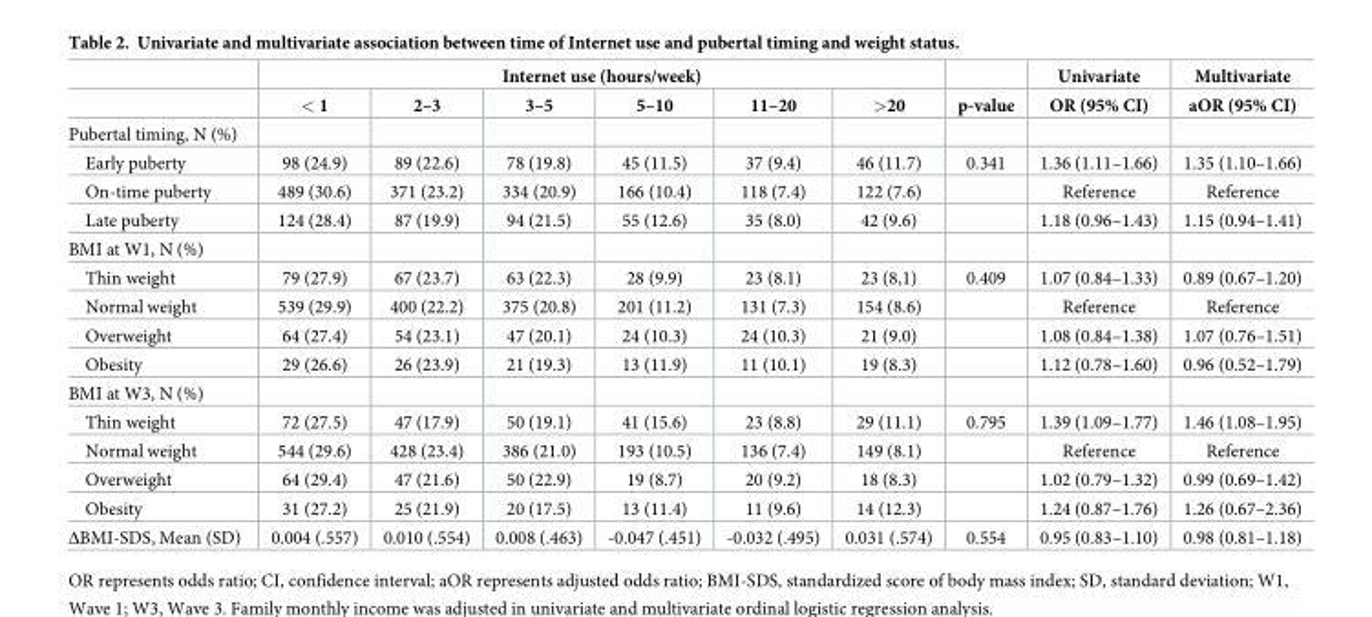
<table><thead><tr><td rowspan="2"></td><td colspan="6">Internet use (hours/week)</td><td rowspan="2">p-value</td><td rowspan="2">Univariate OR (95% CI)</td><td rowspan="2">Multivariate aOR (95% CI)</td></tr><tr><td>&lt; 1</td><td>2–3</td><td>3–5</td><td>5–10</td><td>11–20</td><td>&gt;20</td></tr></thead><tbody><tr><td colspan="10">Pubertal timing, N (%)</td></tr><tr><td>Early puberty</td><td>98 (24.9)</td><td>89 (22.6)</td><td>78 (19.8)</td><td>45 (11.5)</td><td>37 (9.4)</td><td>46 (11.7)</td><td>0.341</td><td>1.36 (1.11–1.66)</td><td>1.35 (1.10–1.66)</td></tr><tr><td>On-time puberty</td><td>489 (30.6)</td><td>371 (23.2)</td><td>334 (20.9)</td><td>166 (10.4)</td><td>118 (7.4)</td><td>122 (7.6)</td><td></td><td>Reference</td><td>Reference</td></tr><tr><td>Late puberty</td><td>124 (28.4)</td><td>87 (19.9)</td><td>94 (21.5)</td><td>55 (12.6)</td><td>35 (8.0)</td><td>42 (9.6)</td><td></td><td>1.18 (0.96–1.43)</td><td>1.15 (0.94–1.41)</td></tr><tr><td colspan="10">BMI at W1, N (%)</td></tr><tr><td>Thin weight</td><td>79 (27.9)</td><td>67 (23.7)</td><td>63 (22.3)</td><td>28 (9.9)</td><td>23 (8.1)</td><td>23 (8,1)</td><td>0.409</td><td>1.07 (0.84–1.33)</td><td>0.89 (0.67–1.20)</td></tr><tr><td>Normal weight</td><td>539 (29.9)</td><td>400 (22.2)</td><td>375 (20.8)</td><td>201 (11.2)</td><td>131 (7.3)</td><td>154 (8.6)</td><td></td><td>Reference</td><td>Reference</td></tr><tr><td>Overweight</td><td>64 (27.4)</td><td>54 (23.1)</td><td>47 (20.1)</td><td>24 (10.3)</td><td>24 (10.3)</td><td>21 (9.0)</td><td></td><td>1.08 (0.84–1.38)</td><td>1.07 (0.76–1.51)</td></tr><tr><td>Obesity</td><td>29 (26.6)</td><td>26 (23.9)</td><td>21 (19.3)</td><td>13 (11.9)</td><td>11 (10.1)</td><td>19 (8.3)</td><td></td><td>1.12 (0.78–1.60)</td><td>0.96 (0.52–1.79)</td></tr><tr><td colspan="10">BMI at W3, N (%)</td></tr><tr><td>Thin weight</td><td>72 (27.5)</td><td>47 (17.9)</td><td>50 (19.1)</td><td>41 (15.6)</td><td>23 (8.8)</td><td>29 (11.1)</td><td>0.795</td><td>1.39 (1.09–1.77)</td><td>1.46 (1.08–1.95)</td></tr><tr><td>Normal weight</td><td>544 (29.6)</td><td>428 (23.4)</td><td>386 (21.0)</td><td>193 (10.5)</td><td>136 (7.4)</td><td>149 (8.1)</td><td></td><td>Reference</td><td>Reference</td></tr><tr><td>Overweight</td><td>64 (29.4)</td><td>47 (21.6)</td><td>50 (22.9)</td><td>19 (8.7)</td><td>20 (9.2)</td><td>18 (8.3)</td><td></td><td>1.02 (0.79–1.32)</td><td>0.99 (0.69–1.42)</td></tr><tr><td>Obesity</td><td>31 (27.2)</td><td>25 (21.9)</td><td>20 (17.5)</td><td>13 (11.4)</td><td>11 (9.6)</td><td>14 (12.3)</td><td></td><td>1.24 (0.87–1.76)</td><td>1.26 (0.67–2.36)</td></tr><tr><td>ΔBMI-SDS, Mean (SD)</td><td>0.004 (.557)</td><td>0.010 (.554)</td><td>0.008 (.463)</td><td>-0.047 (.451)</td><td>-0.032 (.495)</td><td>0.031 (.574)</td><td>0.554</td><td>0.95 (0.83–1.10)</td><td>0.98 (0.81–1.18)</td></tr></tbody></table>